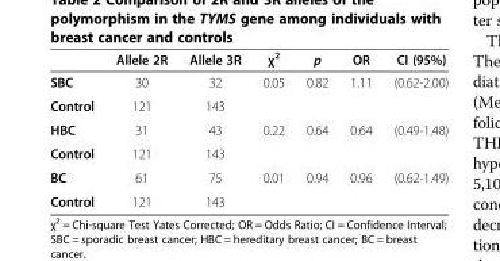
<table><thead><tr><td></td><td>Allele 2R</td><td>Allele 3R</td><td>χ<sup>2</sup></td><td>p</td><td>OR</td><td>CI (95%)</td></tr></thead><tbody><tr><td>SBC</td><td>30</td><td>32</td><td rowspan="2">0.05</td><td rowspan="2">0.82</td><td rowspan="2">1.11</td><td rowspan="2">(0.62-2.00)</td></tr><tr><td>Control</td><td>121</td><td>143</td></tr><tr><td>HBC</td><td>31</td><td>43</td><td rowspan="2">0.22</td><td rowspan="2">0.64</td><td rowspan="2">0.64</td><td rowspan="2">(0.49-1.48)</td></tr><tr><td>Control</td><td>121</td><td>143</td></tr><tr><td>BC</td><td>61</td><td>75</td><td rowspan="2">0.01</td><td rowspan="2">0.94</td><td rowspan="2">0.96</td><td rowspan="2">(0.62-1.49)</td></tr><tr><td>Control</td><td>121</td><td>143</td></tr></tbody></table>